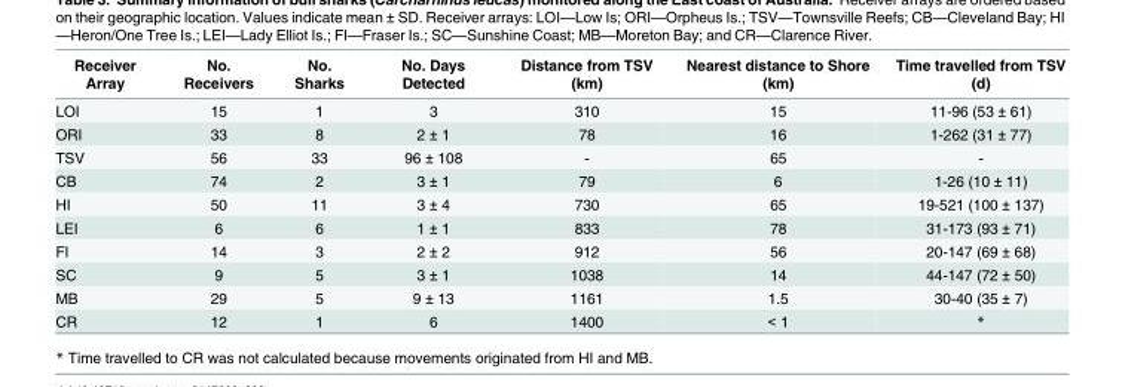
<table><thead><tr><td>Receiver Array</td><td>No. Receivers</td><td>No. Sharks</td><td>No. Days Detected</td><td>Distance from TSV (km)</td><td>Nearest distance to Shore (km)</td><td>Time travelled from TSV (d)</td></tr></thead><tbody><tr><td>LOI</td><td>15</td><td>1</td><td>3</td><td>310</td><td>15</td><td>11-96 (53 ± 61)</td></tr><tr><td>ORI</td><td>33</td><td>8</td><td>2 ± 1</td><td>78</td><td>16</td><td>1-262 (31 ± 77)</td></tr><tr><td>TSV</td><td>56</td><td>33</td><td>96 ± 108</td><td>-</td><td>65</td><td>-</td></tr><tr><td>CB</td><td>74</td><td>2</td><td>3 ± 1</td><td>79</td><td>6</td><td>1-26 (10 ± 11)</td></tr><tr><td>HI</td><td>50</td><td>11</td><td>3 ± 4</td><td>730</td><td>65</td><td>19-521 (100 ± 137)</td></tr><tr><td>LEI</td><td>6</td><td>6</td><td>1 ± 1</td><td>833</td><td>78</td><td>31-173 (93 ± 71)</td></tr><tr><td>FI</td><td>14</td><td>3</td><td>2 ± 2</td><td>912</td><td>56</td><td>20-147 (69 ± 68)</td></tr><tr><td>SC</td><td>9</td><td>5</td><td>3 ± 1</td><td>1038</td><td>14</td><td>44-147 (72 ± 50)</td></tr><tr><td>MB</td><td>29</td><td>5</td><td>9 ± 13</td><td>1161</td><td>1.5</td><td>30-40 (35 ± 7)</td></tr><tr><td>CR</td><td>12</td><td>1</td><td>6</td><td>1400</td><td>&lt; 1</td><td>*</td></tr></tbody></table>